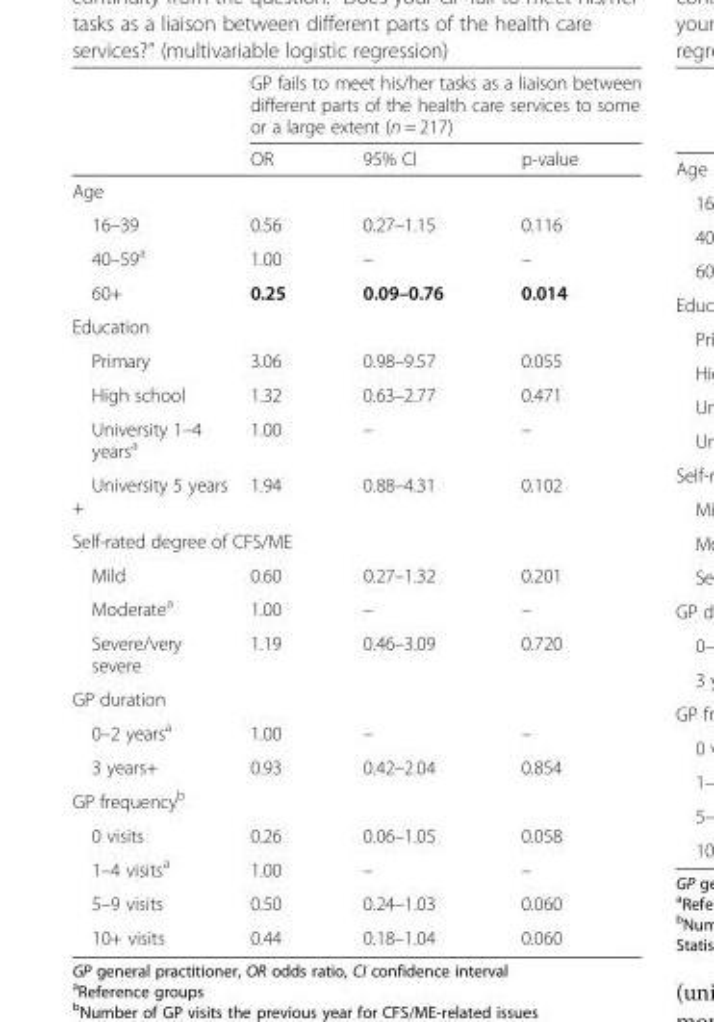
<table><thead><tr><td rowspan="2"></td><td colspan="3">GP fails to meet his/her tasks as a liaison between different parts of the health care services to some or a large extent (n = 217)</td></tr><tr><td>OR</td><td>95% CI</td><td>p-value</td></tr></thead><tbody><tr><td colspan="4">Age</td></tr><tr><td>16–39</td><td>0.56</td><td>0.27–1.15</td><td>0.116</td></tr><tr><td>40–59<sup>a</sup></td><td>1.00</td><td>–</td><td>–</td></tr><tr><td>60+</td><td>0.25</td><td>0.09–0.76</td><td>0.014</td></tr><tr><td colspan="4">Education</td></tr><tr><td>Primary</td><td>3.06</td><td>0.98–9.57</td><td>0.055</td></tr><tr><td>High school</td><td>1.32</td><td>0.63–2.77</td><td>0.471</td></tr><tr><td>University 1–4 years<sup>a</sup></td><td>1.00</td><td>–</td><td>–</td></tr><tr><td>University 5 years +</td><td>1.94</td><td>0.88–4.31</td><td>0.102</td></tr><tr><td colspan="4">Self-rated degree of CFS/ME</td></tr><tr><td>Mild</td><td>0.60</td><td>0.27–1.32</td><td>0.201</td></tr><tr><td>Moderate<sup>a</sup></td><td>1.00</td><td>–</td><td>–</td></tr><tr><td>Severe/very severe</td><td>1.19</td><td>0.46–3.09</td><td>0.720</td></tr><tr><td colspan="4">GP duration</td></tr><tr><td>0–2 years<sup>a</sup></td><td>1.00</td><td>–</td><td>–</td></tr><tr><td>3 years+</td><td>0.93</td><td>0.42–2.04</td><td>0.854</td></tr><tr><td colspan="4">GP frequency<sup>b</sup></td></tr><tr><td>0 visits</td><td>0.26</td><td>0.06–1.05</td><td>0.058</td></tr><tr><td>1–4 visits<sup>a</sup></td><td>1.00</td><td>–</td><td>–</td></tr><tr><td>5–9 visits</td><td>0.50</td><td>0.24–1.03</td><td>0.060</td></tr><tr><td>10+ visits</td><td>0.44</td><td>0.18–1.04</td><td>0.060</td></tr></tbody></table>